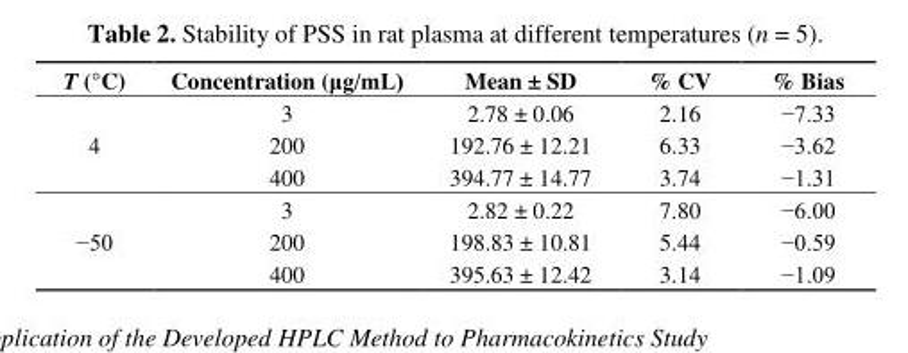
<table><thead><tr><td>T (°C)</td><td>Concentration (μg/mL)</td><td>Mean ± SD</td><td>% CV</td><td>% Bias</td></tr></thead><tbody><tr><td rowspan="3">4</td><td>3</td><td>2.78 ± 0.06</td><td>2.16</td><td>−7.33</td></tr><tr><td>200</td><td>192.76 ± 12.21</td><td>6.33</td><td>−3.62</td></tr><tr><td>400</td><td>394.77 ± 14.77</td><td>3.74</td><td>−1.31</td></tr><tr><td rowspan="3">−50</td><td>3</td><td>2.82 ± 0.22</td><td>7.80</td><td>−6.00</td></tr><tr><td>200</td><td>198.83 ± 10.81</td><td>5.44</td><td>−0.59</td></tr><tr><td>400</td><td>395.63 ± 12.42</td><td>3.14</td><td>−1.09</td></tr></tbody></table>